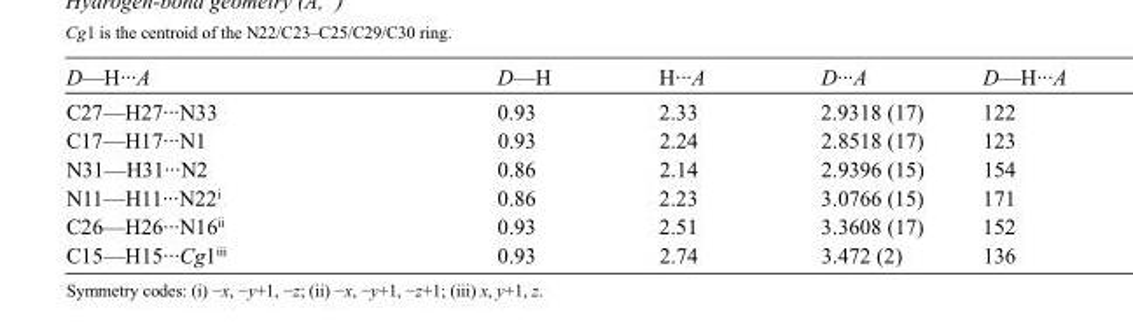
<table><tbody><tr><td>D—H···A</td><td>D—H</td><td>H···A</td><td>D···A</td><td>D—H···A</td></tr><tr><td>C27—H27···N33</td><td>0.93</td><td>2.33</td><td>2.9318 (17)</td><td>122</td></tr><tr><td>C17—H17···N1</td><td>0.93</td><td>2.24</td><td>2.8518 (17)</td><td>123</td></tr><tr><td>N31—H31···N2</td><td>0.86</td><td>2.14</td><td>2.9396 (15)</td><td>154</td></tr><tr><td>N11—H11···N22<sup>i</sup></td><td>0.86</td><td>2.23</td><td>3.0766 (15)</td><td>171</td></tr><tr><td>C26—H26···N16<sup>ii</sup></td><td>0.93</td><td>2.51</td><td>3.3608 (17)</td><td>152</td></tr><tr><td>C15—H15···Cg1<sup>iii</sup></td><td>0.93</td><td>2.74</td><td>3.472 (2)</td><td>136</td></tr></tbody></table>